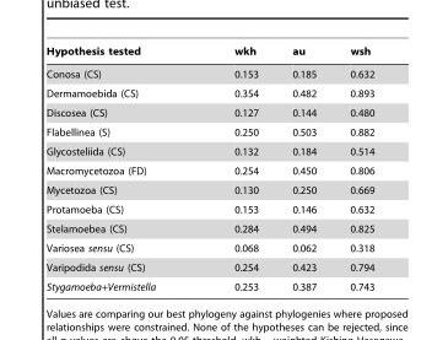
<table><thead><tr><td>Hypothesis tested</td><td>wkh</td><td>au</td><td>wsh</td></tr></thead><tbody><tr><td>Conosa (CS)</td><td>0.153</td><td>0.185</td><td>0.632</td></tr><tr><td>Dermamoebida (CS)</td><td>0.354</td><td>0.482</td><td>0.893</td></tr><tr><td>Discosea (CS)</td><td>0.127</td><td>0.144</td><td>0.480</td></tr><tr><td>Flabellinea (S)</td><td>0.250</td><td>0.503</td><td>0.882</td></tr><tr><td>Glycosteliida (CS)</td><td>0.132</td><td>0.184</td><td>0.514</td></tr><tr><td>Macromycetozoa (FD)</td><td>0.254</td><td>0.450</td><td>0.806</td></tr><tr><td>Mycetozoa (CS)</td><td>0.130</td><td>0.250</td><td>0.669</td></tr><tr><td>Protamoeba (CS)</td><td>0.153</td><td>0.146</td><td>0.632</td></tr><tr><td>Stelamoebea (CS)</td><td>0.284</td><td>0.494</td><td>0.825</td></tr><tr><td>Variosea sensu (CS)</td><td>0.068</td><td>0.062</td><td>0.318</td></tr><tr><td>Varipodida sensu (CS)</td><td>0.254</td><td>0.423</td><td>0.794</td></tr><tr><td>Stygamoeba+Vermistella</td><td>0.253</td><td>0.387</td><td>0.743</td></tr></tbody></table>